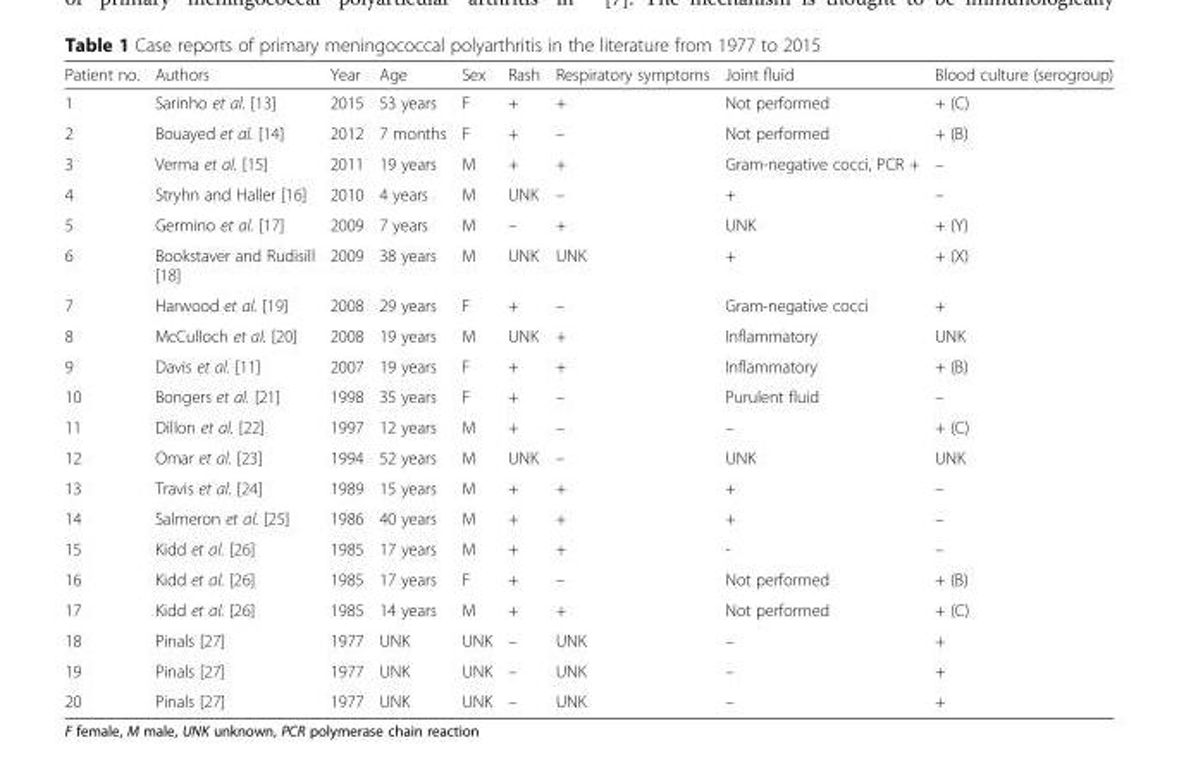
<table><thead><tr><td>Patient no.</td><td>Authors</td><td>Year</td><td>Age</td><td>Sex</td><td>Rash</td><td>Respiratory symptoms</td><td>Joint fluid</td><td>Blood culture (serogroup)</td></tr></thead><tbody><tr><td>1</td><td>Sarinho et al. [13]</td><td>2015</td><td>53 years</td><td>F</td><td>+</td><td>+</td><td>Not performed</td><td>+ (C)</td></tr><tr><td>2</td><td>Bouayed et al. [14]</td><td>2012</td><td>7 months</td><td>F</td><td>+</td><td>–</td><td>Not performed</td><td>+ (B)</td></tr><tr><td>3</td><td>Verma et al. [15]</td><td>2011</td><td>19 years</td><td>M</td><td>+</td><td>+</td><td>Gram-negative cocci, PCR +</td><td>–</td></tr><tr><td>4</td><td>Stryhn and Haller [16]</td><td>2010</td><td>4 years</td><td>M</td><td>UNK</td><td>–</td><td>+</td><td>–</td></tr><tr><td>5</td><td>Germino et al. [17]</td><td>2009</td><td>7 years</td><td>M</td><td>–</td><td>+</td><td>UNK</td><td>+ (Y)</td></tr><tr><td>6</td><td>Bookstaver and Rudisill [18]</td><td>2009</td><td>38 years</td><td>M</td><td>UNK</td><td>UNK</td><td>+</td><td>+ (X)</td></tr><tr><td>7</td><td>Harwood et al. [19]</td><td>2008</td><td>29 years</td><td>F</td><td>+</td><td>–</td><td>Gram-negative cocci</td><td>+</td></tr><tr><td>8</td><td>McCulloch et al. [20]</td><td>2008</td><td>19 years</td><td>M</td><td>UNK</td><td>+</td><td>Inflammatory</td><td>UNK</td></tr><tr><td>9</td><td>Davis et al. [11]</td><td>2007</td><td>19 years</td><td>F</td><td>+</td><td>+</td><td>Inflammatory</td><td>+ (B)</td></tr><tr><td>10</td><td>Bongers et al. [21]</td><td>1998</td><td>35 years</td><td>F</td><td>+</td><td>–</td><td>Purulent fluid</td><td>–</td></tr><tr><td>11</td><td>Dillon et al. [22]</td><td>1997</td><td>12 years</td><td>M</td><td>+</td><td>–</td><td>–</td><td>+ (C)</td></tr><tr><td>12</td><td>Omar et al. [23]</td><td>1994</td><td>52 years</td><td>M</td><td>UNK</td><td>–</td><td>UNK</td><td>UNK</td></tr><tr><td>13</td><td>Travis et al. [24]</td><td>1989</td><td>15 years</td><td>M</td><td>+</td><td>+</td><td>+</td><td>–</td></tr><tr><td>14</td><td>Salmeron et al. [25]</td><td>1986</td><td>40 years</td><td>M</td><td>+</td><td>+</td><td>+</td><td>–</td></tr><tr><td>15</td><td>Kidd et al. [26]</td><td>1985</td><td>17 years</td><td>M</td><td>+</td><td>+</td><td>-</td><td>–</td></tr><tr><td>16</td><td>Kidd et al. [26]</td><td>1985</td><td>17 years</td><td>F</td><td>+</td><td>–</td><td>Not performed</td><td>+ (B)</td></tr><tr><td>17</td><td>Kidd et al. [26]</td><td>1985</td><td>14 years</td><td>M</td><td>+</td><td>+</td><td>Not performed</td><td>+ (C)</td></tr><tr><td>18</td><td>Pinals [27]</td><td>1977</td><td>UNK</td><td>UNK</td><td>–</td><td>UNK</td><td>–</td><td>+</td></tr><tr><td>19</td><td>Pinals [27]</td><td>1977</td><td>UNK</td><td>UNK</td><td>–</td><td>UNK</td><td>–</td><td>+</td></tr><tr><td>20</td><td>Pinals [27]</td><td>1977</td><td>UNK</td><td>UNK</td><td>–</td><td>UNK</td><td>–</td><td>+</td></tr></tbody></table>